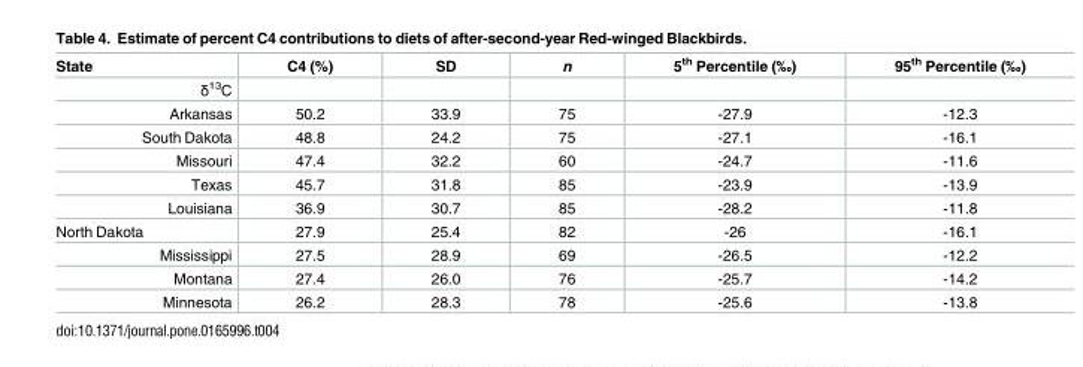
<table><thead><tr><td>State</td><td>C4 (%)</td><td>SD</td><td>n</td><td>5<sup>th</sup> Percentile (‰)</td><td>95<sup>th</sup> Percentile (‰)</td></tr></thead><tbody><tr><td colspan="6">δ<sup>13</sup>C</td></tr><tr><td>Arkansas</td><td>50.2</td><td>33.9</td><td>75</td><td>-27.9</td><td>-12.3</td></tr><tr><td>South Dakota</td><td>48.8</td><td>24.2</td><td>75</td><td>-27.1</td><td>-16.1</td></tr><tr><td>Missouri</td><td>47.4</td><td>32.2</td><td>60</td><td>-24.7</td><td>-11.6</td></tr><tr><td>Texas</td><td>45.7</td><td>31.8</td><td>85</td><td>-23.9</td><td>-13.9</td></tr><tr><td>Louisiana</td><td>36.9</td><td>30.7</td><td>85</td><td>-28.2</td><td>-11.8</td></tr><tr><td>North Dakota</td><td>27.9</td><td>25.4</td><td>82</td><td>-26</td><td>-16.1</td></tr><tr><td>Mississippi</td><td>27.5</td><td>28.9</td><td>69</td><td>-26.5</td><td>-12.2</td></tr><tr><td>Montana</td><td>27.4</td><td>26.0</td><td>76</td><td>-25.7</td><td>-14.2</td></tr><tr><td>Minnesota</td><td>26.2</td><td>28.3</td><td>78</td><td>-25.6</td><td>-13.8</td></tr></tbody></table>